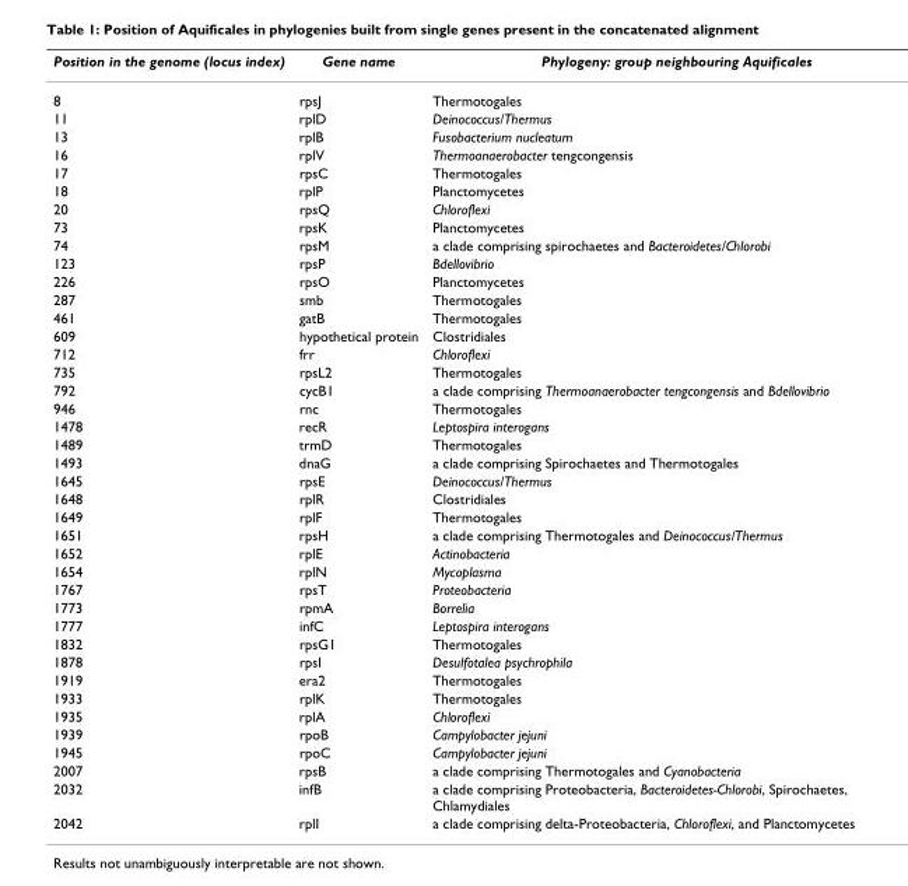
<table><thead><tr><td>Position in the genome (locus index)</td><td>Gene name</td><td>Phylogeny: group neighbouring Aquificales</td></tr></thead><tbody><tr><td>8</td><td>rpsJ</td><td>Thermotogales</td></tr><tr><td>11</td><td>rplD</td><td>Deinococcus/Thermus</td></tr><tr><td>13</td><td>rplB</td><td>Fusobacterium nucleatum</td></tr><tr><td>16</td><td>rplV</td><td>Thermoanaerobacter tengcongensis</td></tr><tr><td>17</td><td>rpsC</td><td>Thermotogales</td></tr><tr><td>18</td><td>rplP</td><td>Planctomycetes</td></tr><tr><td>20</td><td>rpsQ</td><td>Chloroflexi</td></tr><tr><td>73</td><td>rpsK</td><td>Planctomycetes</td></tr><tr><td>74</td><td>rpsM</td><td>a clade comprising spirochaetes and Bacteroidetes/Chlorobi</td></tr><tr><td>123</td><td>rpsP</td><td>Bdellovibrio</td></tr><tr><td>226</td><td>rpsO</td><td>Planctomycetes</td></tr><tr><td>287</td><td>smb</td><td>Thermotogales</td></tr><tr><td>461</td><td>gatB</td><td>Thermotogales</td></tr><tr><td>609</td><td>hypothetical protein</td><td>Clostridiales</td></tr><tr><td>712</td><td>frr</td><td>Chloroflexi</td></tr><tr><td>735</td><td>rpsL2</td><td>Thermotogales</td></tr><tr><td>792</td><td>cycB1</td><td>a clade comprising Thermoanaerobacter tengcongensis and Bdellovibrio</td></tr><tr><td>946</td><td>rnc</td><td>Thermotogales</td></tr><tr><td>1478</td><td>recR</td><td>Leptospira interogans</td></tr><tr><td>1489</td><td>trmD</td><td>Thermotogales</td></tr><tr><td>1493</td><td>dnaG</td><td>a clade comprising Spirochaetes and Thermotogales</td></tr><tr><td>1645</td><td>rpsE</td><td>Deinococcus/Thermus</td></tr><tr><td>1648</td><td>rplR</td><td>Clostridiales</td></tr><tr><td>1649</td><td>rplF</td><td>Thermotogales</td></tr><tr><td>1651</td><td>rpsH</td><td>a clade comprising Thermotogales and Deinococcus/Thermus</td></tr><tr><td>1652</td><td>rplE</td><td>Actinobacteria</td></tr><tr><td>1654</td><td>rplN</td><td>Mycoplasma</td></tr><tr><td>1767</td><td>rpsT</td><td>Proteobacteria</td></tr><tr><td>1773</td><td>rpmA</td><td>Borrelia</td></tr><tr><td>1777</td><td>infC</td><td>Leptospira interogans</td></tr><tr><td>1832</td><td>rpsG1</td><td>Thermotogales</td></tr><tr><td>1878</td><td>rpsI</td><td>Desulfotalea psychrophila</td></tr><tr><td>1919</td><td>era2</td><td>Thermotogales</td></tr><tr><td>1933</td><td>rplK</td><td>Thermotogales</td></tr><tr><td>1935</td><td>rplA</td><td>Chloroflexi</td></tr><tr><td>1939</td><td>rpoB</td><td>Campylobacter jejuni</td></tr><tr><td>1945</td><td>rpoC</td><td>Campylobacter jejuni</td></tr><tr><td>2007</td><td>rpsB</td><td>a clade comprising Thermotogales and Cyanobacteria</td></tr><tr><td>2032</td><td>infB</td><td>a clade comprising Proteobacteria, Bacteroidetes-Chlorobi, Spirochaetes, Chlamydiales</td></tr><tr><td>2042</td><td>rplI</td><td>a clade comprising delta-Proteobacteria, Chloroflexi, and Planctomycetes</td></tr></tbody></table>